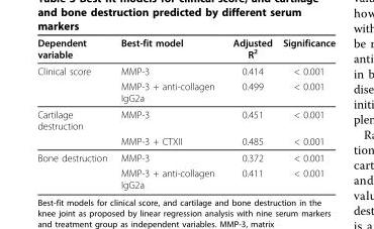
<table><thead><tr><td>Dependent variable</td><td>Best-fit model</td><td>Adjusted R<sup>2</sup></td><td>Significance</td></tr></thead><tbody><tr><td rowspan="2">Clinical score</td><td>MMP-3</td><td>0.414</td><td>&lt; 0.001</td></tr><tr><td>MMP-3 + anti-collagen IgG2a</td><td>0.499</td><td>&lt; 0.001</td></tr><tr><td rowspan="2">Cartilage destruction</td><td>MMP-3</td><td>0.451</td><td>&lt; 0.001</td></tr><tr><td>MMP-3 + CTXII</td><td>0.485</td><td>&lt; 0.001</td></tr><tr><td rowspan="2">Bone destruction</td><td>MMP-3</td><td>0.372</td><td>&lt; 0.001</td></tr><tr><td>MMP-3 + anti-collagen IgG2a</td><td>0.411</td><td>&lt; 0.001</td></tr></tbody></table>